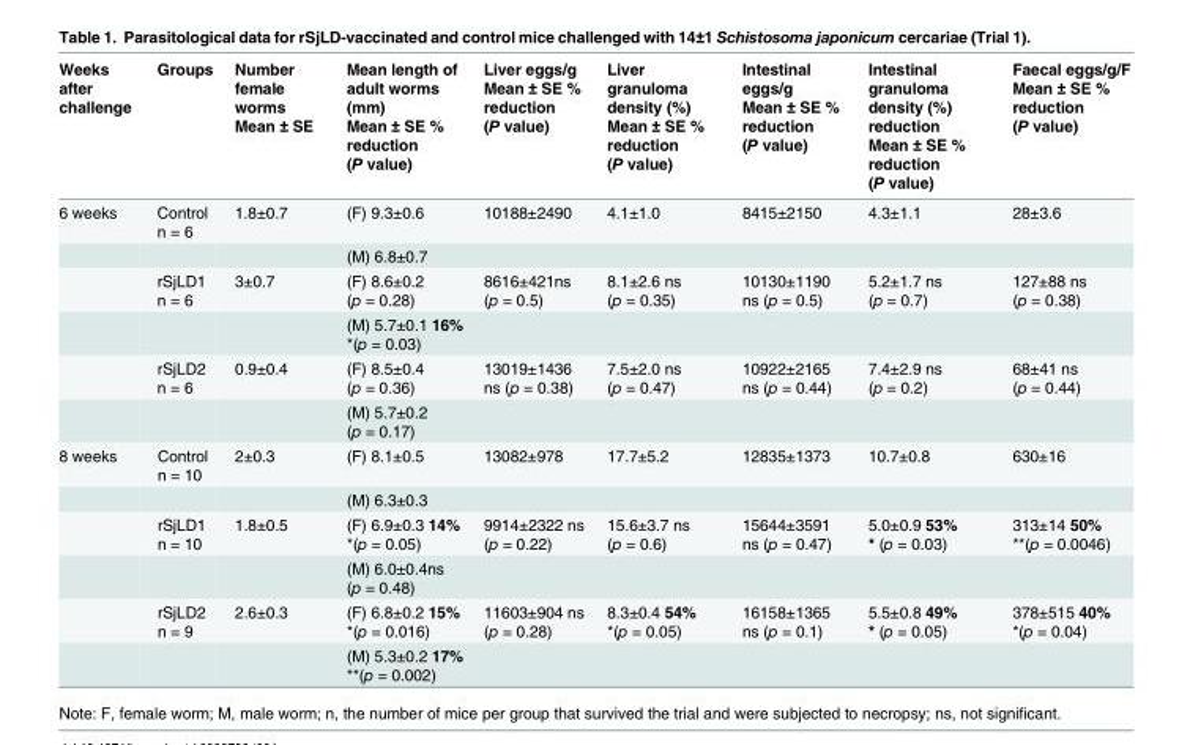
<table><thead><tr><td>Weeks after challenge</td><td>Groups</td><td>Number female worms Mean ± SE</td><td>Mean length of adult worms (mm) Mean ± SE % reduction (P value)</td><td>Liver eggs/g Mean ± SE % reduction (P value)</td><td>Liver granuloma density (%) Mean ± SE % reduction (P value)</td><td>Intestinal eggs/g Mean ± SE % reduction (P value)</td><td>Intestinal granuloma density (%) reduction Mean ± SE % reduction (P value)</td><td>Faecal eggs/g/F Mean ± SE % reduction (P value)</td></tr></thead><tbody><tr><td rowspan="6">6 weeks</td><td>Control n = 6</td><td>1.8±0.7</td><td>(F) 9.3±0.6</td><td>10188±2490</td><td>4.1±1.0</td><td>8415±2150</td><td>4.3±1.1</td><td>28±3.6</td></tr><tr><td></td><td></td><td>(M) 6.8±0.7</td><td></td><td></td><td></td><td></td><td></td></tr><tr><td>rSjLD1 n = 6</td><td>3±0.7</td><td>(F) 8.6±0.2 (p = 0.28)</td><td>8616±421ns (p = 0.5)</td><td>8.1±2.6 ns (p = 0.35)</td><td>10130±1190 ns (p = 0.5)</td><td>5.2±1.7 ns (p = 0.7)</td><td>127±88 ns (p = 0.38)</td></tr><tr><td></td><td></td><td>(M) 5.7±0.1 16% *(p = 0.03)</td><td></td><td></td><td></td><td></td><td></td></tr><tr><td>rSjLD2 n = 6</td><td>0.9±0.4</td><td>(F) 8.5±0.4 (p = 0.36)</td><td>13019±1436 ns (p = 0.38)</td><td>7.5±2.0 ns (p = 0.47)</td><td>10922±2165 ns (p = 0.44)</td><td>7.4±2.9 ns (p = 0.2)</td><td>68±41 ns (p = 0.44)</td></tr><tr><td></td><td></td><td>(M) 5.7±0.2 (p = 0.17)</td><td></td><td></td><td></td><td></td><td></td></tr><tr><td rowspan="6">8 weeks</td><td>Control n = 10</td><td>2±0.3</td><td>(F) 8.1±0.5</td><td>13082±978</td><td>17.7±5.2</td><td>12835±1373</td><td>10.7±0.8</td><td>630±16</td></tr><tr><td></td><td></td><td>(M) 6.3±0.3</td><td></td><td></td><td></td><td></td><td></td></tr><tr><td>rSjLD1 n = 10</td><td>1.8±0.5</td><td>(F) 6.9±0.3 14% *(p = 0.05)</td><td>9914±2322 ns (p = 0.22)</td><td>15.6±3.7 ns (p = 0.6)</td><td>15644±3591 ns (p = 0.47)</td><td>5.0±0.9 53% * (p = 0.03)</td><td>313±14 50% **(p = 0.0046)</td></tr><tr><td></td><td></td><td>(M) 6.0±0.4ns (p = 0.48)</td><td></td><td></td><td></td><td></td><td></td></tr><tr><td>rSjLD2 n = 9</td><td>2.6±0.3</td><td>(F) 6.8±0.2 15% *(p = 0.016)</td><td>11603±904 ns (p = 0.28)</td><td>8.3±0.4 54% *(p = 0.05)</td><td>16158±1365 ns (p = 0.1)</td><td>5.5±0.8 49% * (p = 0.05)</td><td>378±515 40% *(p = 0.04)</td></tr><tr><td></td><td></td><td>(M) 5.3±0.2 17% **(p = 0.002)</td><td></td><td></td><td></td><td></td><td></td></tr></tbody></table>